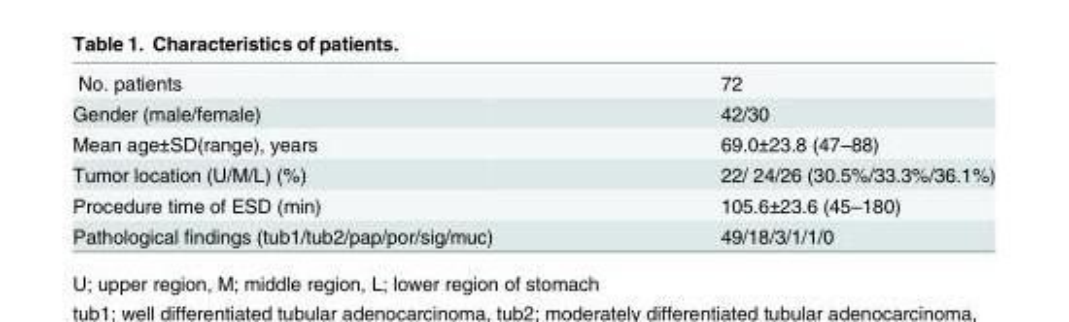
<table><tbody><tr><td>No. patients</td><td>72</td></tr><tr><td>Gender (male/female)</td><td>42/30</td></tr><tr><td>Mean age±SD(range), years</td><td>69.0±23.8 (47–88)</td></tr><tr><td>Tumor location (U/M/L) (%)</td><td>22/ 24/26 (30.5%/33.3%/36.1%)</td></tr><tr><td>Procedure time of ESD (min)</td><td>105.6±23.6 (45–180)</td></tr><tr><td>Pathological findings (tub1/tub2/pap/por/sig/muc)</td><td>49/18/3/1/1/0</td></tr></tbody></table>